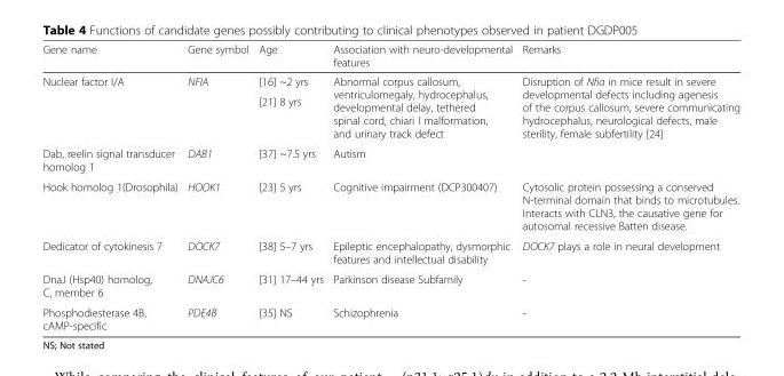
<table><thead><tr><td>Gene name</td><td>Gene symbol</td><td>Age</td><td>Association with neuro-developmental features</td><td>Remarks</td></tr></thead><tbody><tr><td rowspan="2">Nuclear factor I/A</td><td rowspan="2">NFIA</td><td>[16] ~2 yrs</td><td rowspan="2">Abnormal corpus callosum, ventriculomegaly, hydrocephalus, developmental delay, tethered spinal cord, chiari I malformation, and urinary track defect</td><td rowspan="2">Disruption of Nfia in mice result in severe developmental defects including agenesis of the corpus callosum, severe communicating hydrocephalus, neurological defects, male sterility, female subfertility [24]</td></tr><tr><td>[21] 8 yrs</td></tr><tr><td>Dab, reelin signal transducer homolog 1</td><td>DAB1</td><td>[37] ~7.5 yrs</td><td>Autism</td><td></td></tr><tr><td>Hook homolog 1(Drosophila)</td><td>HOOK1</td><td>[23] 5 yrs</td><td>Cognitive impairment (DCP300407)</td><td>Cytosolic protein possessing a conserved N-terminal domain that binds to microtubules. Interacts with CLN3, the causative gene for autosomal recessive Batten disease.</td></tr><tr><td>Dedicator of cytokinesis 7</td><td>DOCK7</td><td>[38] 5–7 yrs</td><td>Epileptic encephalopathy, dysmorphic features and intellectual disability</td><td>DOCK7 plays a role in neural development</td></tr><tr><td>DnaJ (Hsp40) homolog, C, member 6</td><td>DNAJC6</td><td>[31] 17–44 yrs</td><td>Parkinson disease Subfamily</td><td>-</td></tr><tr><td>Phosphodiesterase 4B, cAMP-specific</td><td>PDE4B</td><td>[35] NS</td><td>Schizophrenia</td><td>-</td></tr></tbody></table>